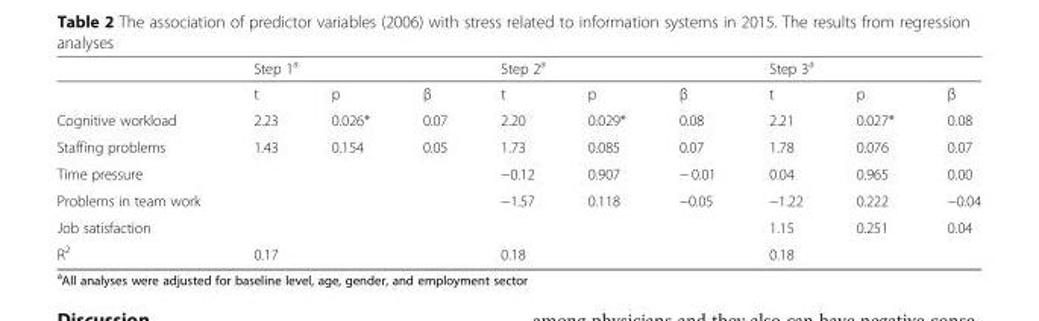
<table><thead><tr><td rowspan="2"></td><td colspan="3">Step 1<sup>a</sup></td><td colspan="3">Step 2<sup>a</sup></td><td colspan="3">Step 3<sup>a</sup></td></tr><tr><td>t</td><td>p</td><td>β</td><td>t</td><td>p</td><td>β</td><td>t</td><td>p</td><td>β</td></tr></thead><tbody><tr><td>Cognitive workload</td><td>2.23</td><td>0.026*</td><td>0.07</td><td>2.20</td><td>0.029*</td><td>0.08</td><td>2.21</td><td>0.027*</td><td>0.08</td></tr><tr><td>Staffing problems</td><td>1.43</td><td>0.154</td><td>0.05</td><td>1.73</td><td>0.085</td><td>0.07</td><td>1.78</td><td>0.076</td><td>0.07</td></tr><tr><td>Time pressure</td><td></td><td></td><td></td><td>−0.12</td><td>0.907</td><td>− 0.01</td><td>0.04</td><td>0.965</td><td>0.00</td></tr><tr><td>Problems in team work</td><td></td><td></td><td></td><td>−1.57</td><td>0.118</td><td>−0.05</td><td>−1.22</td><td>0.222</td><td>−0.04</td></tr><tr><td>Job satisfaction</td><td></td><td></td><td></td><td></td><td></td><td></td><td>1.15</td><td>0.251</td><td>0.04</td></tr><tr><td>R<sup>2</sup></td><td>0.17</td><td></td><td></td><td>0.18</td><td></td><td></td><td>0.18</td><td></td><td></td></tr></tbody></table>